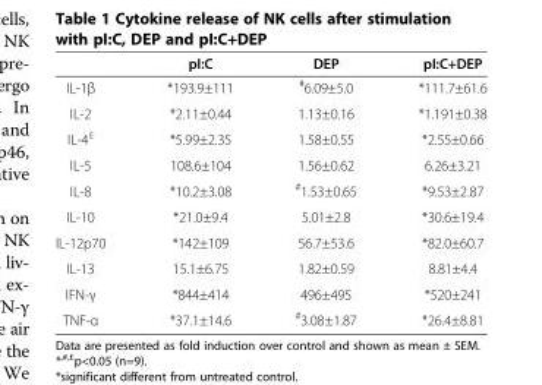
<table><thead><tr><td></td><td>pI:C</td><td>DEP</td><td>pI:C+DEP</td></tr></thead><tbody><tr><td>IL-1β</td><td>*193.9±111</td><td><sup>#</sup>6.09±5.0</td><td>*111.7±61.6</td></tr><tr><td>IL-2</td><td>*2.11±0.44</td><td>1.13±0.16</td><td>*1.191±0.38</td></tr><tr><td>IL-4<sup>£</sup></td><td>*5.99±2.35</td><td>1.58±0.55</td><td>*2.55±0.66</td></tr><tr><td>IL-5</td><td>108.6±104</td><td>1.56±0.62</td><td>6.26±3.21</td></tr><tr><td>IL-8</td><td>*10.2±3.08</td><td><sup>#</sup>1.53±0.65</td><td>*9.53±2.87</td></tr><tr><td>IL-10</td><td>*21.0±9.4</td><td>5.01±2.8</td><td>*30.6±19.4</td></tr><tr><td>IL-12p70</td><td>*142±109</td><td>56.7±53.6</td><td>*82.0±60.7</td></tr><tr><td>IL-13</td><td>15.1±6.75</td><td>1.82±0.59</td><td>8.81±4.4</td></tr><tr><td>IFN-γ</td><td>*844±414</td><td>496±495</td><td>*520±241</td></tr><tr><td>TNF-α</td><td>*37.1±14.6</td><td><sup>#</sup>3.08±1.87</td><td>*26.4±8.81</td></tr></tbody></table>